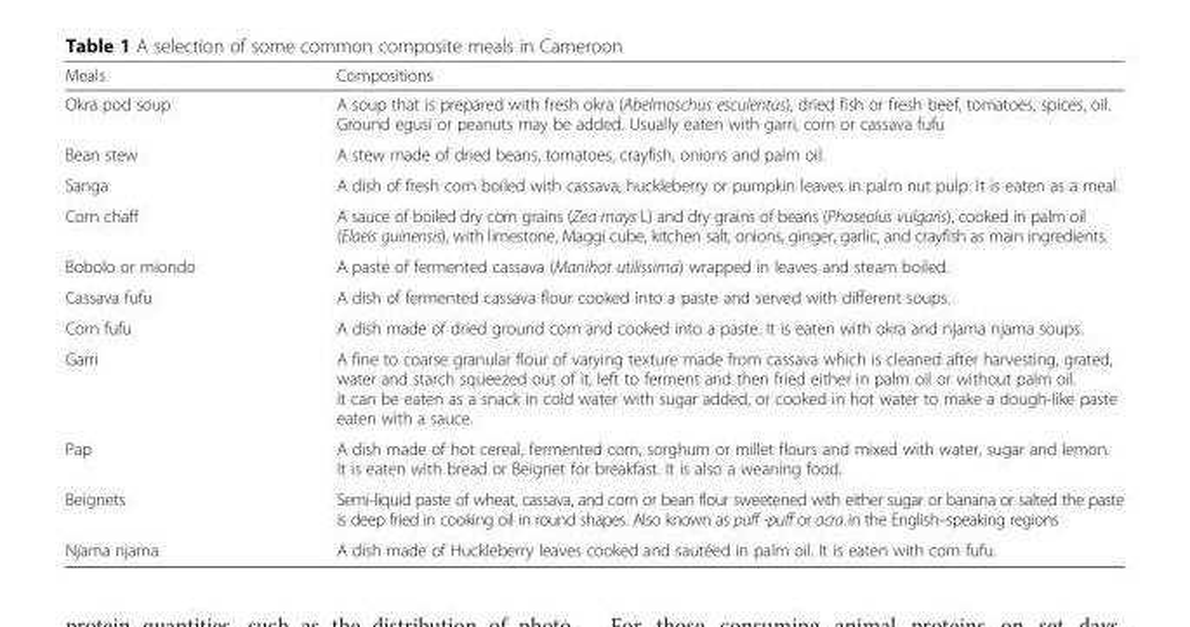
<table><thead><tr><td>Meals</td><td>Compositions</td></tr></thead><tbody><tr><td>Okra pod soup</td><td>A soup that is prepared with fresh okra (Abelmoschus esculentus), dried fish or fresh beef, tomatoes, spices, oil. Ground egusi or peanuts may be added. Usually eaten with garri, corn or cassava fufu</td></tr><tr><td>Bean stew</td><td>A stew made of dried beans, tomatoes, crayfish, onions and palm oil.</td></tr><tr><td>Sanga</td><td>A dish of fresh corn boiled with cassava, huckleberry or pumpkin leaves in palm nut pulp. It is eaten as a meal.</td></tr><tr><td>Corn chaff</td><td>A sauce of boiled dry corn grains (Zea mays L) and dry grains of beans (Phaseolus vulgaris), cooked in palm oil (Elaeis guinensis), with limestone, Maggi cube, kitchen salt, onions, ginger, garlic, and crayfish as main ingredients.</td></tr><tr><td>Bobolo or miondo</td><td>A paste of fermented cassava (Manihot utilissima) wrapped in leaves and steam boiled.</td></tr><tr><td>Cassava fufu</td><td>A dish of fermented cassava flour cooked into a paste and served with different soups.</td></tr><tr><td>Corn fufu</td><td>A dish made of dried ground corn and cooked into a paste. It is eaten with okra and njama njama soups.</td></tr><tr><td>Garri</td><td>A fine to coarse granular flour of varying texture made from cassava which is cleaned after harvesting, grated, water and starch squeezed out of it, left to ferment and then fried either in palm oil or without palm oil. It can be eaten as a snack in cold water with sugar added, or cooked in hot water to make a dough-like paste eaten with a sauce.</td></tr><tr><td>Pap</td><td>A dish made of hot cereal, fermented corn, sorghum or millet flours and mixed with water, sugar and lemon. It is eaten with bread or Beignet for breakfast. It is also a weaning food.</td></tr><tr><td>Beignets</td><td>Semi-liquid paste of wheat, cassava, and corn or bean flour sweetened with either sugar or banana or salted the paste is deep fried in cooking oil in round shapes. Also known as puff -puff or acra in the English–speaking regions</td></tr><tr><td>Njama njama</td><td>A dish made of Huckleberry leaves cooked and sautéed in palm oil. It is eaten with corn fufu.</td></tr></tbody></table>